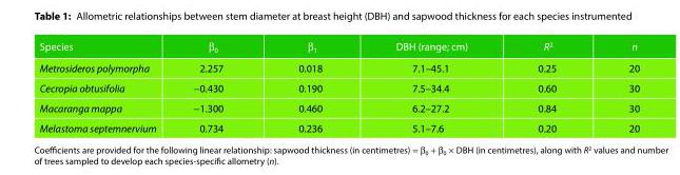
<table><thead><tr><td>Species</td><td>β<sub>0</sub></td><td>β<sub>1</sub></td><td>DBH (range; cm)</td><td>R<sup>2</sup></td><td>n</td></tr></thead><tbody><tr><td>Metrosideros polymorpha</td><td>2.257</td><td>0.018</td><td>7.1–45.1</td><td>0.25</td><td>20</td></tr><tr><td>Cecropia obtusifolia</td><td>−0.430</td><td>0.190</td><td>7.5–34.4</td><td>0.60</td><td>30</td></tr><tr><td>Macaranga mappa</td><td>−1.300</td><td>0.460</td><td>6.2–27.2</td><td>0.84</td><td>30</td></tr><tr><td>Melastoma septemnervium</td><td>0.734</td><td>0.236</td><td>5.1–7.6</td><td>0.20</td><td>20</td></tr></tbody></table>